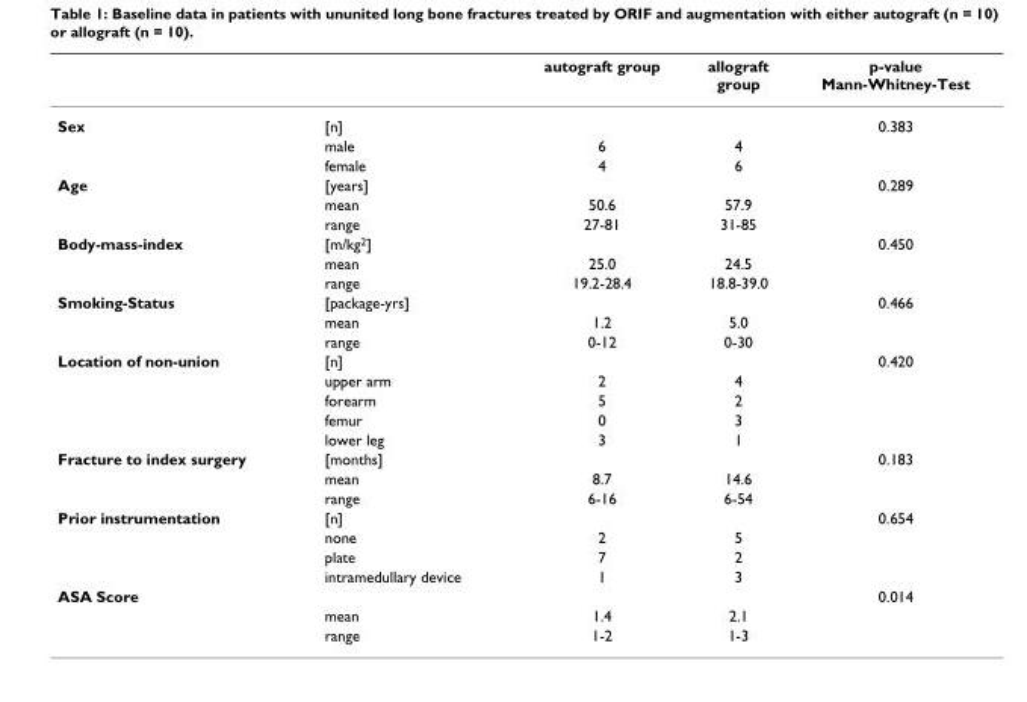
<table><thead><tr><td></td><td></td><td>autograft group</td><td>allograft group</td><td>p-value Mann-Whitney-Test</td></tr></thead><tbody><tr><td rowspan="3">Sex</td><td>[n]</td><td></td><td></td><td>0.383</td></tr><tr><td>male</td><td>6</td><td>4</td><td></td></tr><tr><td>female</td><td>4</td><td>6</td><td></td></tr><tr><td rowspan="3">Age</td><td>[years]</td><td></td><td></td><td>0.289</td></tr><tr><td>mean</td><td>50.6</td><td>57.9</td><td></td></tr><tr><td>range</td><td>27-81</td><td>31-85</td><td></td></tr><tr><td rowspan="3">Body-mass-index</td><td>[m/kg<sup>2</sup>]</td><td></td><td></td><td>0.450</td></tr><tr><td>mean</td><td>25.0</td><td>24.5</td><td></td></tr><tr><td>range</td><td>19.2-28.4</td><td>18.8-39.0</td><td></td></tr><tr><td rowspan="3">Smoking-Status</td><td>[package-yrs]</td><td></td><td></td><td>0.466</td></tr><tr><td>mean</td><td>1.2</td><td>5.0</td><td></td></tr><tr><td>range</td><td>0-12</td><td>0-30</td><td></td></tr><tr><td rowspan="5">Location of non-union</td><td>[n]</td><td></td><td></td><td>0.420</td></tr><tr><td>upper arm</td><td>2</td><td>4</td><td></td></tr><tr><td>forearm</td><td>5</td><td>2</td><td></td></tr><tr><td>femur</td><td>0</td><td>3</td><td></td></tr><tr><td>lower leg</td><td>3</td><td>1</td><td></td></tr><tr><td rowspan="3">Fracture to index surgery</td><td>[months]</td><td></td><td></td><td>0.183</td></tr><tr><td>mean</td><td>8.7</td><td>14.6</td><td></td></tr><tr><td>range</td><td>6-16</td><td>6-54</td><td></td></tr><tr><td rowspan="4">Prior instrumentation</td><td>[n]</td><td></td><td></td><td>0.654</td></tr><tr><td>none</td><td>2</td><td>5</td><td></td></tr><tr><td>plate</td><td>7</td><td>2</td><td></td></tr><tr><td>intramedullary device</td><td>1</td><td>3</td><td></td></tr><tr><td rowspan="3">ASA Score</td><td></td><td></td><td></td><td>0.014</td></tr><tr><td>mean</td><td>1.4</td><td>2.1</td><td></td></tr><tr><td>range</td><td>1-2</td><td>1-3</td><td></td></tr></tbody></table>